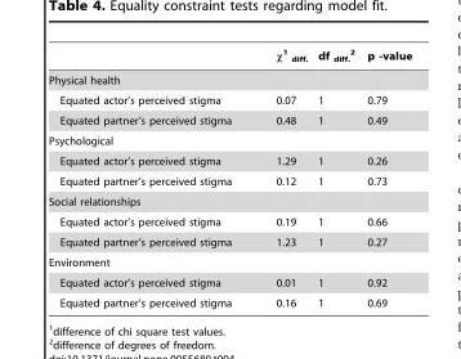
<table><thead><tr><td></td><td>x1 diff.</td><td>df <sub>diff.</sub> 2</td><td>p -value</td></tr></thead><tbody><tr><td colspan="4">Physical health</td></tr><tr><td>Equated actor’s perceived stigma</td><td>0.07</td><td>1</td><td>0.79</td></tr><tr><td>Equated partner’s perceived stigma</td><td>0.48</td><td>1</td><td>0.49</td></tr><tr><td colspan="4">Psychological</td></tr><tr><td>Equated actor’s perceived stigma</td><td>1.29</td><td>1</td><td>0.26</td></tr><tr><td>Equated partner’s perceived stigma</td><td>0.12</td><td>1</td><td>0.73</td></tr><tr><td colspan="4">Social relationships</td></tr><tr><td>Equated actor’s perceived stigma</td><td>0.19</td><td>1</td><td>0.66</td></tr><tr><td>Equated partner’s perceived stigma</td><td>1.23</td><td>1</td><td>0.27</td></tr><tr><td colspan="4">Environment</td></tr><tr><td>Equated actor’s perceived stigma</td><td>0.01</td><td>1</td><td>0.92</td></tr><tr><td>Equated partner’s perceived stigma</td><td>0.16</td><td>1</td><td>0.69</td></tr></tbody></table>